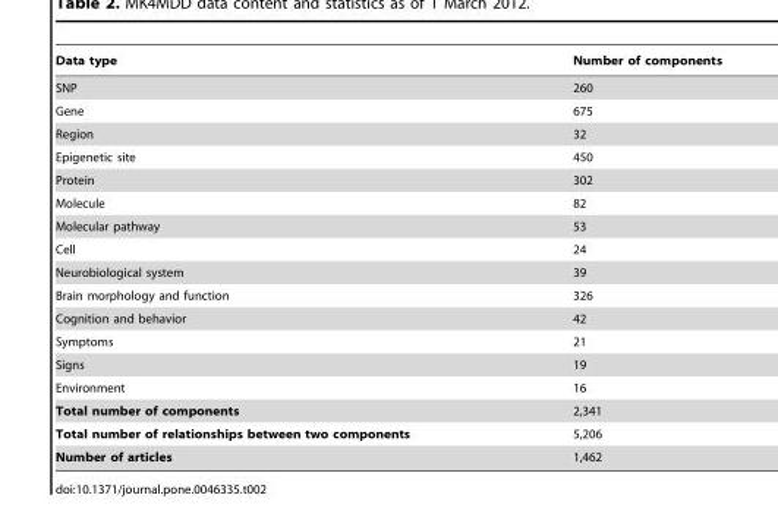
<table><thead><tr><td>Data type</td><td>Number of components</td></tr></thead><tbody><tr><td>SNP</td><td>260</td></tr><tr><td>Gene</td><td>675</td></tr><tr><td>Region</td><td>32</td></tr><tr><td>Epigenetic site</td><td>450</td></tr><tr><td>Protein</td><td>302</td></tr><tr><td>Molecule</td><td>82</td></tr><tr><td>Molecular pathway</td><td>53</td></tr><tr><td>Cell</td><td>24</td></tr><tr><td>Neurobiological system</td><td>39</td></tr><tr><td>Brain morphology and function</td><td>326</td></tr><tr><td>Cognition and behavior</td><td>42</td></tr><tr><td>Symptoms</td><td>21</td></tr><tr><td>Signs</td><td>19</td></tr><tr><td>Environment</td><td>16</td></tr><tr><td>Total number of components</td><td>2,341</td></tr><tr><td>Total number of relationships between two components</td><td>5,206</td></tr><tr><td>Number of articles</td><td>1,462</td></tr></tbody></table>